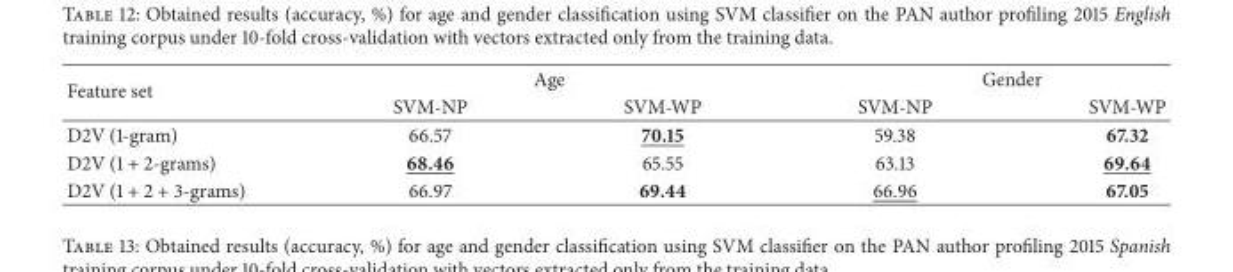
<table><thead><tr><td rowspan="2">Feature set</td><td colspan="2">Age</td><td colspan="2">Gender</td></tr><tr><td>SVM-NP</td><td>SVM-WP</td><td>SVM-NP</td><td>SVM-WP</td></tr></thead><tbody><tr><td>D2V (1-gram)</td><td>66.57</td><td>70.15</td><td>59.38</td><td>67.32</td></tr><tr><td>D2V (1 + 2-grams)</td><td>68.46</td><td>65.55</td><td>63.13</td><td>69.64</td></tr><tr><td>D2V (1 + 2 + 3-grams)</td><td>66.97</td><td>69.44</td><td>66.96</td><td>67.05</td></tr></tbody></table>